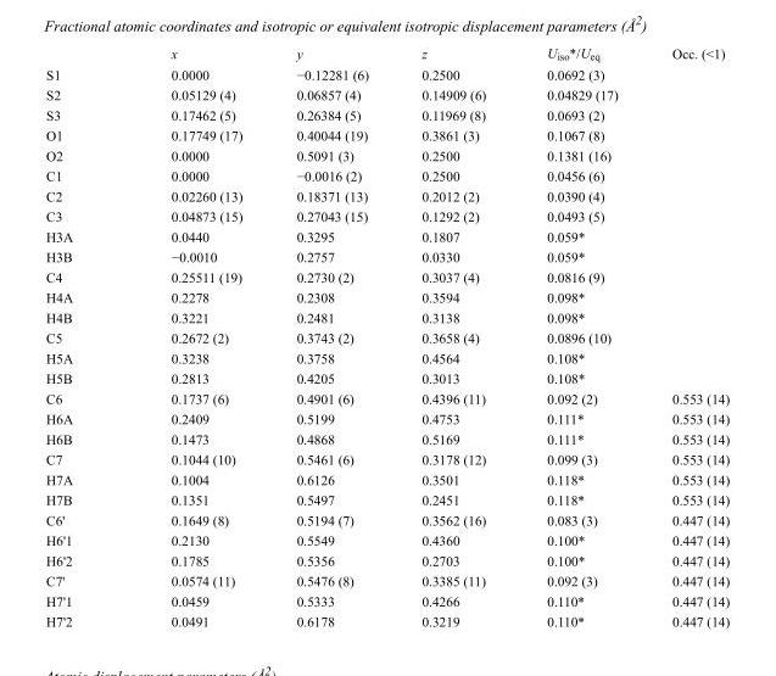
<table><thead><tr><td></td><td>x</td><td>y</td><td>z</td><td>U<sub>iso</sub>*/U<sub>eq</sub></td><td>Occ. (&lt;1)</td></tr></thead><tbody><tr><td>S1</td><td>0.0000</td><td>−0.12281 (6)</td><td>0.2500</td><td>0.0692 (3)</td><td></td></tr><tr><td>S2</td><td>0.05129 (4)</td><td>0.06857 (4)</td><td>0.14909 (6)</td><td>0.04829 (17)</td><td></td></tr><tr><td>S3</td><td>0.17462 (5)</td><td>0.26384 (5)</td><td>0.11969 (8)</td><td>0.0693 (2)</td><td></td></tr><tr><td>O1</td><td>0.17749 (17)</td><td>0.40044 (19)</td><td>0.3861 (3)</td><td>0.1067 (8)</td><td></td></tr><tr><td>O2</td><td>0.0000</td><td>0.5091 (3)</td><td>0.2500</td><td>0.1381 (16)</td><td></td></tr><tr><td>C1</td><td>0.0000</td><td>−0.0016 (2)</td><td>0.2500</td><td>0.0456 (6)</td><td></td></tr><tr><td>C2</td><td>0.02260 (13)</td><td>0.18371 (13)</td><td>0.2012 (2)</td><td>0.0390 (4)</td><td></td></tr><tr><td>C3</td><td>0.04873 (15)</td><td>0.27043 (15)</td><td>0.1292 (2)</td><td>0.0493 (5)</td><td></td></tr><tr><td>H3A</td><td>0.0440</td><td>0.3295</td><td>0.1807</td><td>0.059*</td><td></td></tr><tr><td>H3B</td><td>−0.0010</td><td>0.2757</td><td>0.0330</td><td>0.059*</td><td></td></tr><tr><td>C4</td><td>0.25511 (19)</td><td>0.2730 (2)</td><td>0.3037 (4)</td><td>0.0816 (9)</td><td></td></tr><tr><td>H4A</td><td>0.2278</td><td>0.2308</td><td>0.3594</td><td>0.098*</td><td></td></tr><tr><td>H4B</td><td>0.3221</td><td>0.2481</td><td>0.3138</td><td>0.098*</td><td></td></tr><tr><td>C5</td><td>0.2672 (2)</td><td>0.3743 (2)</td><td>0.3658 (4)</td><td>0.0896 (10)</td><td></td></tr><tr><td>H5A</td><td>0.3238</td><td>0.3758</td><td>0.4564</td><td>0.108*</td><td></td></tr><tr><td>H5B</td><td>0.2813</td><td>0.4205</td><td>0.3013</td><td>0.108*</td><td></td></tr><tr><td>C6</td><td>0.1737 (6)</td><td>0.4901 (6)</td><td>0.4396 (11)</td><td>0.092 (2)</td><td>0.553 (14)</td></tr><tr><td>H6A</td><td>0.2409</td><td>0.5199</td><td>0.4753</td><td>0.111*</td><td>0.553 (14)</td></tr><tr><td>H6B</td><td>0.1473</td><td>0.4868</td><td>0.5169</td><td>0.111*</td><td>0.553 (14)</td></tr><tr><td>C7</td><td>0.1044 (10)</td><td>0.5461 (6)</td><td>0.3178 (12)</td><td>0.099 (3)</td><td>0.553 (14)</td></tr><tr><td>H7A</td><td>0.1004</td><td>0.6126</td><td>0.3501</td><td>0.118*</td><td>0.553 (14)</td></tr><tr><td>H7B</td><td>0.1351</td><td>0.5497</td><td>0.2451</td><td>0.118*</td><td>0.553 (14)</td></tr><tr><td>C6&#x27;</td><td>0.1649 (8)</td><td>0.5194 (7)</td><td>0.3562 (16)</td><td>0.083 (3)</td><td>0.447 (14)</td></tr><tr><td>H6&#x27;1</td><td>0.2130</td><td>0.5549</td><td>0.4360</td><td>0.100*</td><td>0.447 (14)</td></tr><tr><td>H6&#x27;2</td><td>0.1785</td><td>0.5356</td><td>0.2703</td><td>0.100*</td><td>0.447 (14)</td></tr><tr><td>C7&#x27;</td><td>0.0574 (11)</td><td>0.5476 (8)</td><td>0.3385 (11)</td><td>0.092 (3)</td><td>0.447 (14)</td></tr><tr><td>H7&#x27;1</td><td>0.0459</td><td>0.5333</td><td>0.4266</td><td>0.110*</td><td>0.447 (14)</td></tr><tr><td>H7&#x27;2</td><td>0.0491</td><td>0.6178</td><td>0.3219</td><td>0.110*</td><td>0.447 (14)</td></tr></tbody></table>